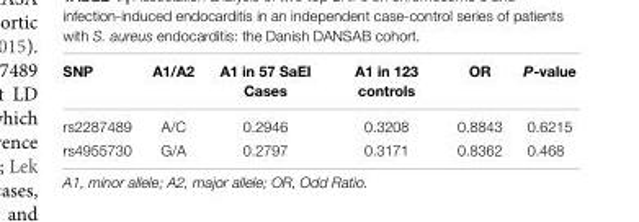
<table><thead><tr><td>SNP</td><td>A1/A2</td><td>A1 in 57 SaEI Cases</td><td>A1 in 123 controls</td><td>OR</td><td>P-value</td></tr></thead><tbody><tr><td>rs2287489</td><td>A/C</td><td>0.2946</td><td>0.3208</td><td>0.8843</td><td>0.6215</td></tr><tr><td>rs4955730</td><td>G/A</td><td>0.2797</td><td>0.3171</td><td>0.8362</td><td>0.468</td></tr></tbody></table>